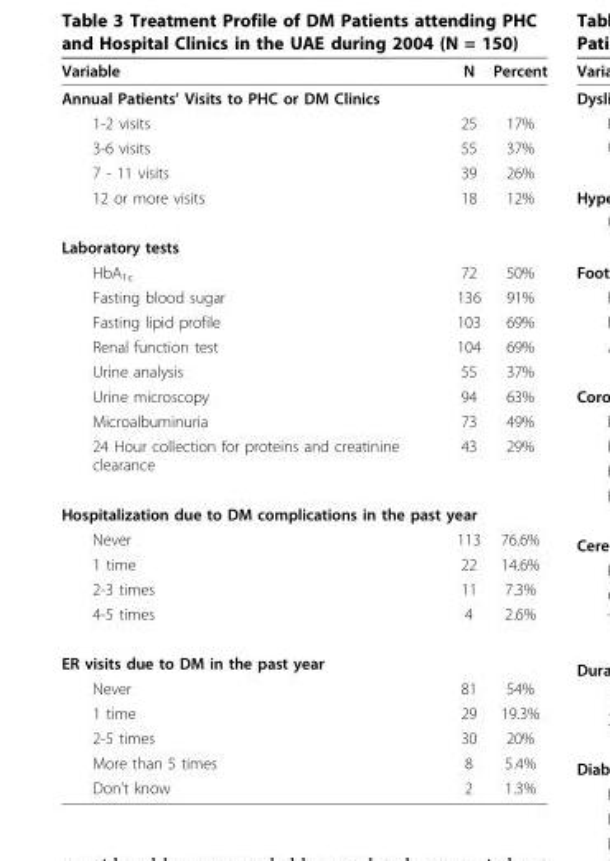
<table><thead><tr><td>Variable</td><td>N</td><td>Percent</td></tr></thead><tbody><tr><td colspan="3">Annual Patients’ Visits to PHC or DM Clinics</td></tr><tr><td>1-2 visits</td><td>25</td><td>17%</td></tr><tr><td>3-6 visits</td><td>55</td><td>37%</td></tr><tr><td>7 - 11 visits</td><td>39</td><td>26%</td></tr><tr><td>12 or more visits</td><td>18</td><td>12%</td></tr><tr><td colspan="3">Laboratory tests</td></tr><tr><td>HbA<sub>1c</sub></td><td>72</td><td>50%</td></tr><tr><td>Fasting blood sugar</td><td>136</td><td>91%</td></tr><tr><td>Fasting lipid profile</td><td>103</td><td>69%</td></tr><tr><td>Renal function test</td><td>104</td><td>69%</td></tr><tr><td>Urine analysis</td><td>55</td><td>37%</td></tr><tr><td>Urine microscopy</td><td>94</td><td>63%</td></tr><tr><td>Microalbuminuria</td><td>73</td><td>49%</td></tr><tr><td>24 Hour collection for proteins and creatinine clearance</td><td>43</td><td>29%</td></tr><tr><td colspan="3">Hospitalization due to DM complications in the past year</td></tr><tr><td>Never</td><td>113</td><td>76.6%</td></tr><tr><td>1 time</td><td>22</td><td>14.6%</td></tr><tr><td>2-3 times</td><td>11</td><td>7.3%</td></tr><tr><td>4-5 times</td><td>4</td><td>2.6%</td></tr><tr><td colspan="3">ER visits due to DM in the past year</td></tr><tr><td>Never</td><td>81</td><td>54%</td></tr><tr><td>1 time</td><td>29</td><td>19.3%</td></tr><tr><td>2-5 times</td><td>30</td><td>20%</td></tr><tr><td>More than 5 times</td><td>8</td><td>5.4%</td></tr><tr><td>Don’t know</td><td>2</td><td>1.3%</td></tr></tbody></table>